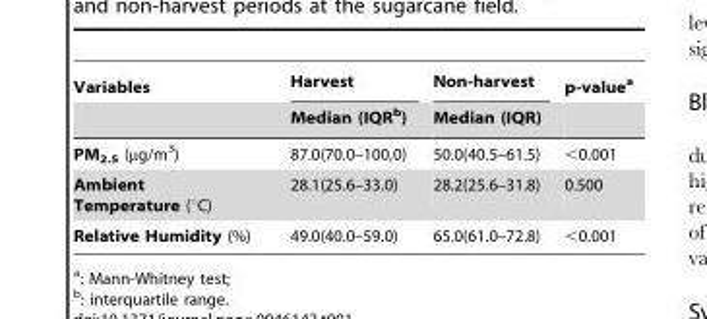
<table><thead><tr><td rowspan="2">Variables</td><td rowspan="2">Harvest Median (IQR<sup>b</sup>)</td><td rowspan="2">Non-harvest Median (IQR)</td><td rowspan="2">p-value<sup>a</sup></td></tr><tr></tr></thead><tbody><tr><td>PM<sub>2.5</sub> (µg/m<sup>3</sup>)</td><td>87.0(70.0–100,0)</td><td>50.0(40.5–61.5)</td><td>&lt;0.001</td></tr><tr><td>Ambient Temperature (°C)</td><td>28.1(25.6–33.0)</td><td>28.2(25.6–31.8)</td><td>0.500</td></tr><tr><td>Relative Humidity (%)</td><td>49.0(40.0–59.0)</td><td>65.0(61.0–72.8)</td><td>&lt;0.001</td></tr></tbody></table>